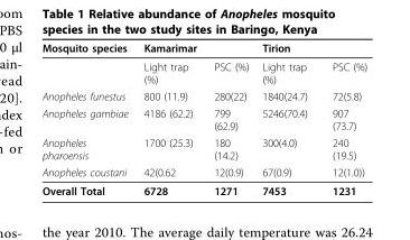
<table><thead><tr><td rowspan="2">Mosquito species</td><td colspan="2">Kamarimar</td><td colspan="2">Tirion</td></tr><tr><td>Light trap (%)</td><td>PSC (%)</td><td>Light trap (%)</td><td>PSC (%)</td></tr></thead><tbody><tr><td>Anopheles funestus</td><td>800 (11.9)</td><td>280(22)</td><td>1840(24.7)</td><td>72(5.8)</td></tr><tr><td>Anopheles gambiae</td><td>4186 (62.2)</td><td>799 (62.9)</td><td>5246(70.4)</td><td>907 (73.7)</td></tr><tr><td>Anopheles pharoensis</td><td>1700 (25.3)</td><td>180 (14.2)</td><td>300(4.0)</td><td>240 (19.5)</td></tr><tr><td>Anopheles coustani</td><td>42(0.62</td><td>12(0.9)</td><td>67(0.9)</td><td>12(1.0))</td></tr><tr><td>Overall Total</td><td>6728</td><td>1271</td><td>7453</td><td>1231</td></tr></tbody></table>